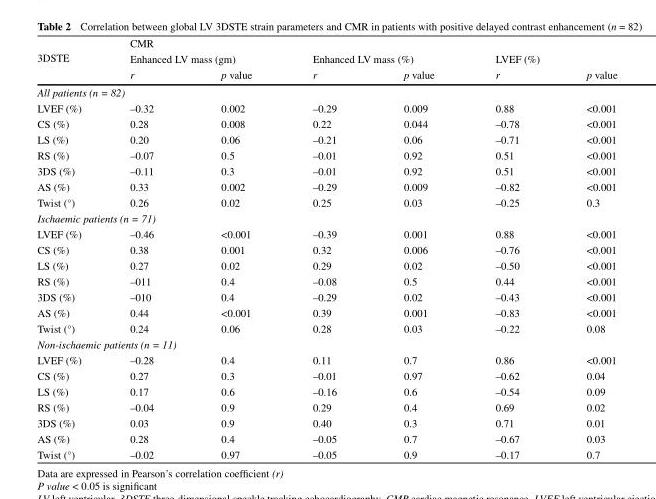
<table><thead><tr><td rowspan="3">3DSTE</td><td colspan="6">CMR</td></tr><tr><td colspan="2">Enhanced LV mass (gm)</td><td colspan="2">Enhanced LV mass (%)</td><td colspan="2">LVEF (%)</td></tr><tr><td>r</td><td>p value</td><td>r</td><td>p value</td><td>r</td><td>p value</td></tr></thead><tbody><tr><td colspan="7">All patients (n = 82)</td></tr><tr><td>LVEF (%)</td><td>–0.32</td><td>0.002</td><td>–0.29</td><td>0.009</td><td>0.88</td><td>&lt;0.001</td></tr><tr><td>CS (%)</td><td>0.28</td><td>0.008</td><td>0.22</td><td>0.044</td><td>–0.78</td><td>&lt;0.001</td></tr><tr><td>LS (%)</td><td>0.20</td><td>0.06</td><td>–0.21</td><td>0.06</td><td>–0.71</td><td>&lt;0.001</td></tr><tr><td>RS (%)</td><td>–0.07</td><td>0.5</td><td>–0.01</td><td>0.92</td><td>0.51</td><td>&lt;0.001</td></tr><tr><td>3DS (%)</td><td>–0.11</td><td>0.3</td><td>–0.01</td><td>0.92</td><td>0.51</td><td>&lt;0.001</td></tr><tr><td>AS (%)</td><td>0.33</td><td>0.002</td><td>–0.29</td><td>0.009</td><td>–0.82</td><td>&lt;0.001</td></tr><tr><td>Twist (°)</td><td>0.26</td><td>0.02</td><td>0.25</td><td>0.03</td><td>–0.25</td><td>0.3</td></tr><tr><td colspan="7">Ischaemic patients (n = 71)</td></tr><tr><td>LVEF (%)</td><td>–0.46</td><td>&lt;0.001</td><td>–0.39</td><td>0.001</td><td>0.88</td><td>&lt;0.001</td></tr><tr><td>CS (%)</td><td>0.38</td><td>0.001</td><td>0.32</td><td>0.006</td><td>–0.76</td><td>&lt;0.001</td></tr><tr><td>LS (%)</td><td>0.27</td><td>0.02</td><td>0.29</td><td>0.02</td><td>–0.50</td><td>&lt;0.001</td></tr><tr><td>RS (%)</td><td>–011</td><td>0.4</td><td>–0.08</td><td>0.5</td><td>0.44</td><td>&lt;0.001</td></tr><tr><td>3DS (%)</td><td>–010</td><td>0.4</td><td>–0.29</td><td>0.02</td><td>–0.43</td><td>&lt;0.001</td></tr><tr><td>AS (%)</td><td>0.44</td><td>&lt;0.001</td><td>0.39</td><td>0.001</td><td>–0.83</td><td>&lt;0.001</td></tr><tr><td>Twist (°)</td><td>0.24</td><td>0.06</td><td>0.28</td><td>0.03</td><td>–0.22</td><td>0.08</td></tr><tr><td colspan="7">Non-ischaemic patients (n = 11)</td></tr><tr><td>LVEF (%)</td><td>–0.28</td><td>0.4</td><td>0.11</td><td>0.7</td><td>0.86</td><td>&lt;0.001</td></tr><tr><td>CS (%)</td><td>0.27</td><td>0.3</td><td>–0.01</td><td>0.97</td><td>–0.62</td><td>0.04</td></tr><tr><td>LS (%)</td><td>0.17</td><td>0.6</td><td>–0.16</td><td>0.6</td><td>–0.54</td><td>0.09</td></tr><tr><td>RS (%)</td><td>–0.04</td><td>0.9</td><td>0.29</td><td>0.4</td><td>0.69</td><td>0.02</td></tr><tr><td>3DS (%)</td><td>0.03</td><td>0.9</td><td>0.40</td><td>0.3</td><td>0.71</td><td>0.01</td></tr><tr><td>AS (%)</td><td>0.28</td><td>0.4</td><td>–0.05</td><td>0.7</td><td>–0.67</td><td>0.03</td></tr><tr><td>Twist (°)</td><td>–0.02</td><td>0.97</td><td>–0.05</td><td>0.9</td><td>–0.17</td><td>0.7</td></tr></tbody></table>